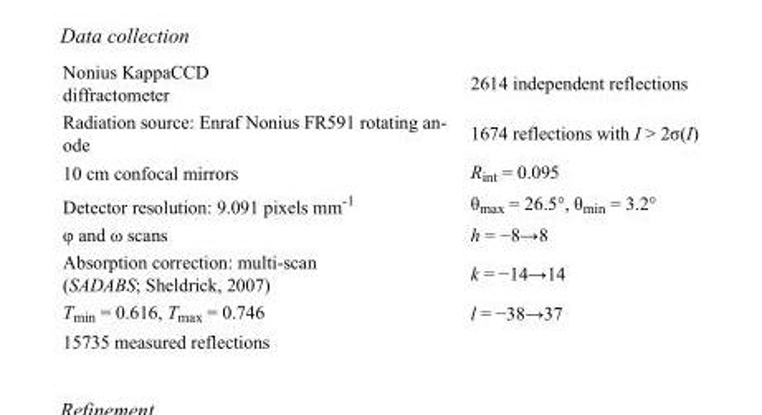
<table><tbody><tr><td>Nonius KappaCCD diffractometer</td><td>2614 independent reflections</td></tr><tr><td>Radiation source: Enraf Nonius FR591 rotating an- ode</td><td>1674 reflections with I &gt; 2σ(I)</td></tr><tr><td>10 cm confocal mirrors</td><td>R<sub>int</sub> = 0.095</td></tr><tr><td>Detector resolution: 9.091 pixels mm<sup>-1</sup></td><td>θ<sub>max</sub> = 26.5°, θ<sub>min</sub> = 3.2°</td></tr><tr><td>φ and ω scans</td><td>h = −8→8</td></tr><tr><td>Absorption correction: multi-scan (SADABS; Sheldrick, 2007)</td><td>k = −14→14</td></tr><tr><td>T<sub>min</sub> = 0.616, T<sub>max</sub> = 0.746</td><td>l = −38→37</td></tr><tr><td>15735 measured reflections</td><td></td></tr></tbody></table>